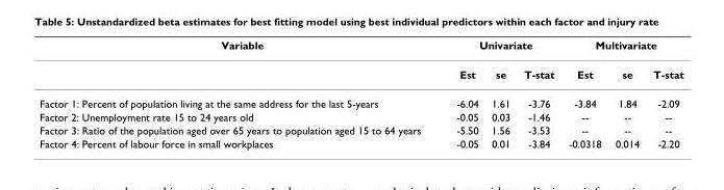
<table><thead><tr><td rowspan="2">Variable</td><td colspan="3">Univariate</td><td colspan="3">Multivariate</td></tr><tr><td>Est</td><td>se</td><td>T-stat</td><td>Est</td><td>se</td><td>T-stat</td></tr></thead><tbody><tr><td>Factor 1: Percent of population living at the same address for the last 5-years</td><td>-6.04</td><td>1.61</td><td>-3.76</td><td>-3.84</td><td>1.84</td><td>-2.09</td></tr><tr><td>Factor 2: Unemployment rate 15 to 24 years old</td><td>-0.05</td><td>0.03</td><td>-1.46</td><td>--</td><td>--</td><td>--</td></tr><tr><td>Factor 3: Ratio of the population aged over 65 years to population aged 15 to 64 years</td><td>-5.50</td><td>1.56</td><td>-3.53</td><td>--</td><td>--</td><td>--</td></tr><tr><td>Factor 4: Percent of labour force in small workplaces</td><td>-0.05</td><td>0.01</td><td>-3.84</td><td>-0.0318</td><td>0.014</td><td>-2.20</td></tr></tbody></table>